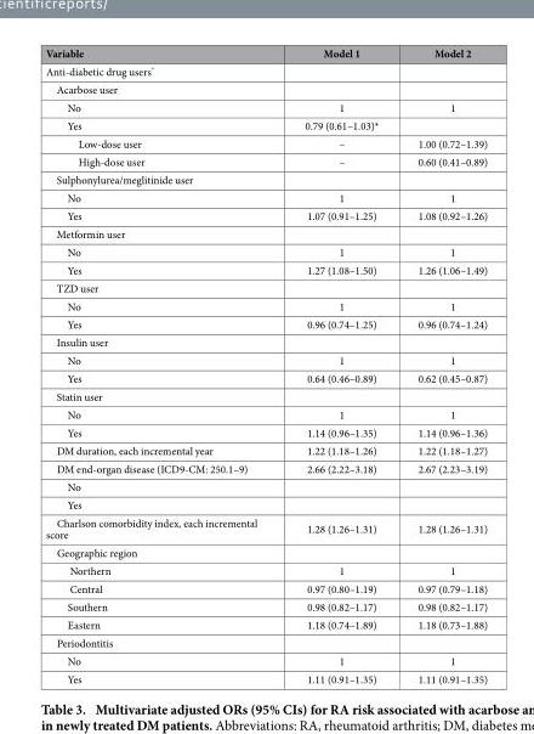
<table><thead><tr><td>Variable</td><td>Model 1</td><td>Model 2</td></tr></thead><tbody><tr><td colspan="3">Anti-diabetic drug users*</td></tr><tr><td colspan="3">Acarbose user</td></tr><tr><td>No</td><td>1</td><td>1</td></tr><tr><td>Yes</td><td>0.79 (0.61–1.03)*</td><td></td></tr><tr><td>Low-dose user</td><td>–</td><td>1.00 (0.72–1.39)</td></tr><tr><td>High-dose user</td><td>–</td><td>0.60 (0.41–0.89)</td></tr><tr><td colspan="3">Sulphonylurea/meglitinide user</td></tr><tr><td>No</td><td>1</td><td>1</td></tr><tr><td>Yes</td><td>1.07 (0.91–1.25)</td><td>1.08 (0.92–1.26)</td></tr><tr><td colspan="3">Metformin user</td></tr><tr><td>No</td><td>1</td><td>1</td></tr><tr><td>Yes</td><td>1.27 (1.08–1.50)</td><td>1.26 (1.06–1.49)</td></tr><tr><td colspan="3">TZD user</td></tr><tr><td>No</td><td>1</td><td>1</td></tr><tr><td>Yes</td><td>0.96 (0.74–1.25)</td><td>0.96 (0.74–1.24)</td></tr><tr><td colspan="3">Insulin user</td></tr><tr><td>No</td><td>1</td><td>1</td></tr><tr><td>Yes</td><td>0.64 (0.46–0.89)</td><td>0.62 (0.45–0.87)</td></tr><tr><td colspan="3">Statin user</td></tr><tr><td>No</td><td>1</td><td>1</td></tr><tr><td>Yes</td><td>1.14 (0.96–1.35)</td><td>1.14 (0.96–1.36)</td></tr><tr><td>DM duration, each incremental year</td><td>1.22 (1.18–1.26)</td><td>1.22 (1.18–1.27)</td></tr><tr><td>DM end-organ disease (ICD9-CM: 250.1–9)</td><td>2.66 (2.22–3.18)</td><td>2.67 (2.23–3.19)</td></tr><tr><td colspan="3">No</td></tr><tr><td colspan="3">Yes</td></tr><tr><td>Charlson comorbidity index, each incremental score</td><td>1.28 (1.26–1.31)</td><td>1.28 (1.26–1.31)</td></tr><tr><td colspan="3">Geographic region</td></tr><tr><td>Northern</td><td>1</td><td>1</td></tr><tr><td>Central</td><td>0.97 (0.80–1.19)</td><td>0.97 (0.79–1.18)</td></tr><tr><td>Southern</td><td>0.98 (0.82–1.17)</td><td>0.98 (0.82–1.17)</td></tr><tr><td>Eastern</td><td>1.18 (0.74–1.89)</td><td>1.18 (0.73–1.88)</td></tr><tr><td colspan="3">Periodontitis</td></tr><tr><td>No</td><td>1</td><td>1</td></tr><tr><td>Yes</td><td>1.11 (0.91–1.35)</td><td>1.11 (0.91–1.35)</td></tr></tbody></table>